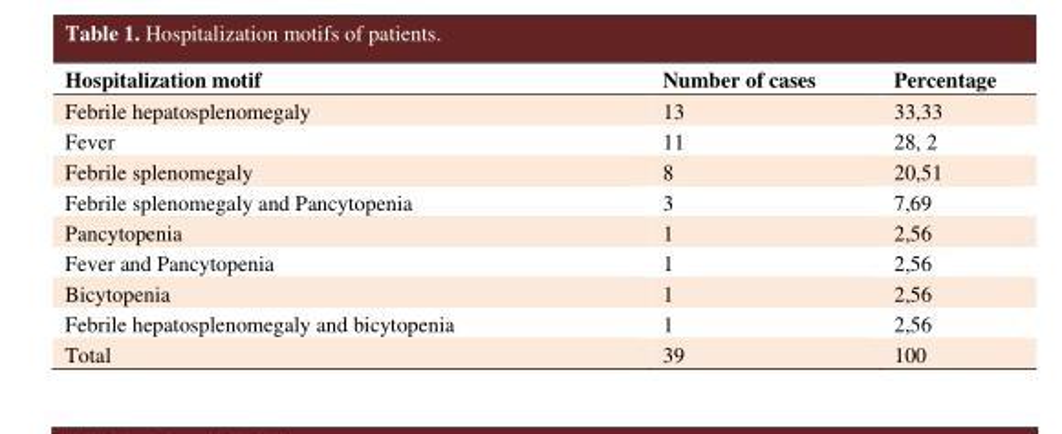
<table><thead><tr><td>Hospitalization motif</td><td>Number of cases</td><td>Percentage</td></tr></thead><tbody><tr><td>Febrile hepatosplenomegaly</td><td>13</td><td>33,33</td></tr><tr><td>Fever</td><td>11</td><td>28, 2</td></tr><tr><td>Febrile splenomegaly</td><td>8</td><td>20,51</td></tr><tr><td>Febrile splenomegaly and Pancytopenia</td><td>3</td><td>7,69</td></tr><tr><td>Pancytopenia</td><td>1</td><td>2,56</td></tr><tr><td>Fever and Pancytopenia</td><td>1</td><td>2,56</td></tr><tr><td>Bicytopenia</td><td>1</td><td>2,56</td></tr><tr><td>Febrile hepatosplenomegaly and bicytopenia</td><td>1</td><td>2,56</td></tr><tr><td>Total</td><td>39</td><td>100</td></tr></tbody></table>